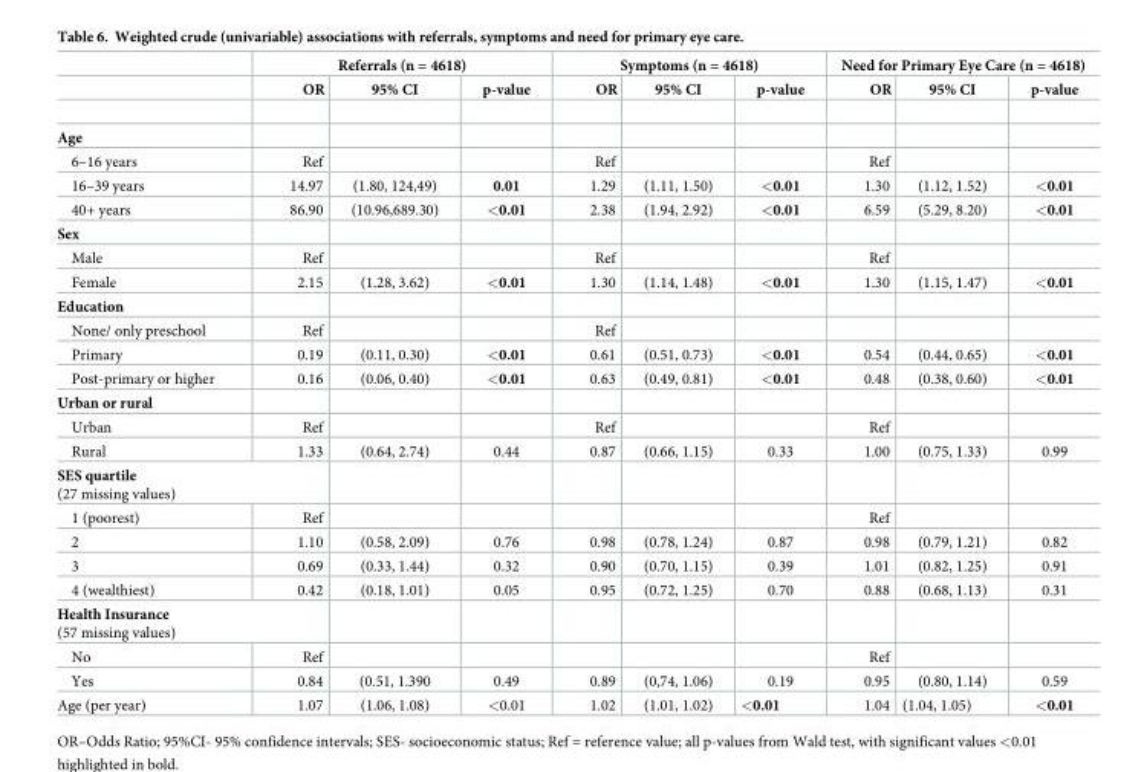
<table><thead><tr><td rowspan="2"></td><td colspan="3">Referrals (n = 4618)</td><td colspan="3">Symptoms (n = 4618)</td><td colspan="3">Need for Primary Eye Care (n = 4618)</td></tr><tr><td>OR</td><td>95% CI</td><td>p-value</td><td>OR</td><td>95% CI</td><td>p-value</td><td>OR</td><td>95% CI</td><td>p-value</td></tr></thead><tbody><tr><td colspan="10">Age</td></tr><tr><td>6–16 years</td><td>Ref</td><td></td><td></td><td>Ref</td><td></td><td></td><td>Ref</td><td></td><td></td></tr><tr><td>16–39 years</td><td>14.97</td><td>(1.80, 124,49)</td><td>0.01</td><td>1.29</td><td>(1.11, 1.50)</td><td>&lt;0.01</td><td>1.30</td><td>(1.12, 1.52)</td><td>&lt;0.01</td></tr><tr><td>40+ years</td><td>86.90</td><td>(10.96,689.30)</td><td>&lt;0.01</td><td>2.38</td><td>(1.94, 2.92)</td><td>&lt;0.01</td><td>6.59</td><td>(5.29, 8.20)</td><td>&lt;0.01</td></tr><tr><td colspan="10">Sex</td></tr><tr><td>Male</td><td>Ref</td><td></td><td></td><td>Ref</td><td></td><td></td><td>Ref</td><td></td><td></td></tr><tr><td>Female</td><td>2.15</td><td>(1.28, 3.62)</td><td>&lt;0.01</td><td>1.30</td><td>(1.14, 1.48)</td><td>&lt;0.01</td><td>1.30</td><td>(1.15, 1.47)</td><td>&lt;0.01</td></tr><tr><td colspan="10">Education</td></tr><tr><td>None/ only preschool</td><td>Ref</td><td></td><td></td><td>Ref</td><td></td><td></td><td></td><td></td><td></td></tr><tr><td>Primary</td><td>0.19</td><td>(0.11, 0.30)</td><td>&lt;0.01</td><td>0.61</td><td>(0.51, 0.73)</td><td>&lt;0.01</td><td>0.54</td><td>(0.44, 0.65)</td><td>&lt;0.01</td></tr><tr><td>Post-primary or higher</td><td>0.16</td><td>(0.06, 0.40)</td><td>&lt;0.01</td><td>0.63</td><td>(0.49, 0.81)</td><td>&lt;0.01</td><td>0.48</td><td>(0.38, 0.60)</td><td>&lt;0.01</td></tr><tr><td colspan="10">Urban or rural</td></tr><tr><td>Urban</td><td>Ref</td><td></td><td></td><td>Ref</td><td></td><td></td><td>Ref</td><td></td><td></td></tr><tr><td>Rural</td><td>1.33</td><td>(0.64, 2.74)</td><td>0.44</td><td>0.87</td><td>(0.66, 1.15)</td><td>0.33</td><td>1.00</td><td>(0.75, 1.33)</td><td>0.99</td></tr><tr><td colspan="10">SES quartile (27 missing values)</td></tr><tr><td>1 (poorest)</td><td>Ref</td><td></td><td></td><td></td><td></td><td></td><td>Ref</td><td></td><td></td></tr><tr><td>2</td><td>1.10</td><td>(0.58, 2.09)</td><td>0.76</td><td>0.98</td><td>(0.78, 1.24)</td><td>0.87</td><td>0.98</td><td>(0.79, 1.21)</td><td>0.82</td></tr><tr><td>3</td><td>0.69</td><td>(0.33, 1.44)</td><td>0.32</td><td>0.90</td><td>(0.70, 1.15)</td><td>0.39</td><td>1.01</td><td>(0.82, 1.25)</td><td>0.91</td></tr><tr><td>4 (wealthiest)</td><td>0.42</td><td>(0.18, 1.01)</td><td>0.05</td><td>0.95</td><td>(0.72, 1.25)</td><td>0.70</td><td>0.88</td><td>(0.68, 1.13)</td><td>0.31</td></tr><tr><td colspan="10">Health Insurance (57 missing values)</td></tr><tr><td>No</td><td>Ref</td><td></td><td></td><td></td><td></td><td></td><td>Ref</td><td></td><td></td></tr><tr><td>Yes</td><td>0.84</td><td>(0.51, 1.390</td><td>0.49</td><td>0.89</td><td>(0,74, 1.06)</td><td>0.19</td><td>0.95</td><td>(0.80, 1.14)</td><td>0.59</td></tr><tr><td>Age (per year)</td><td>1.07</td><td>(1.06, 1.08)</td><td>&lt;0.01</td><td>1.02</td><td>(1.01, 1.02)</td><td>&lt;0.01</td><td>1.04</td><td>(1.04, 1.05)</td><td>&lt;0.01</td></tr></tbody></table>